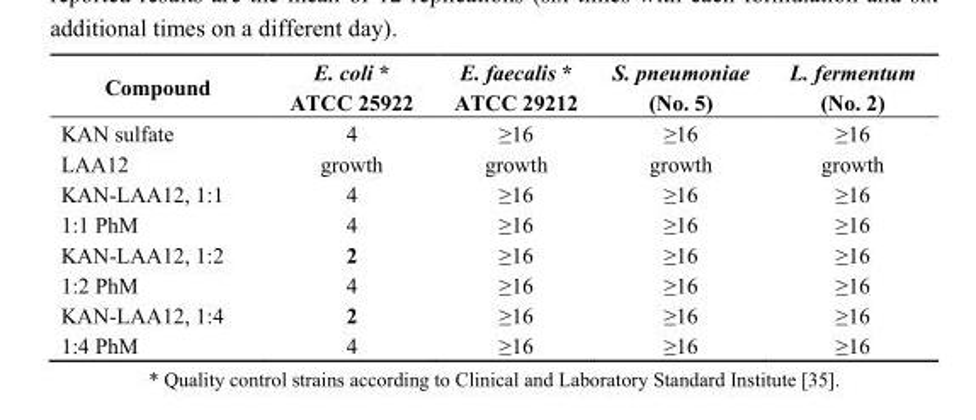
<table><thead><tr><td>Compound</td><td>E. coli * ATCC 25922</td><td>E. faecalis * ATCC 29212</td><td>S. pneumoniae (No. 5)</td><td>L. fermentum (No. 2)</td></tr></thead><tbody><tr><td>KAN sulfate</td><td>4</td><td>≥16</td><td>≥16</td><td>≥16</td></tr><tr><td>LAA12</td><td>growth</td><td>growth</td><td>growth</td><td>growth</td></tr><tr><td>KAN-LAA12, 1:1</td><td>4</td><td>≥16</td><td>≥16</td><td>≥16</td></tr><tr><td>1:1 PhM</td><td>4</td><td>≥16</td><td>≥16</td><td>≥16</td></tr><tr><td>KAN-LAA12, 1:2</td><td>2</td><td>≥16</td><td>≥16</td><td>≥16</td></tr><tr><td>1:2 PhM</td><td>4</td><td>≥16</td><td>≥16</td><td>≥16</td></tr><tr><td>KAN-LAA12, 1:4</td><td>2</td><td>≥16</td><td>≥16</td><td>≥16</td></tr><tr><td>1:4 PhM</td><td>4</td><td>≥16</td><td>≥16</td><td>≥16</td></tr></tbody></table>